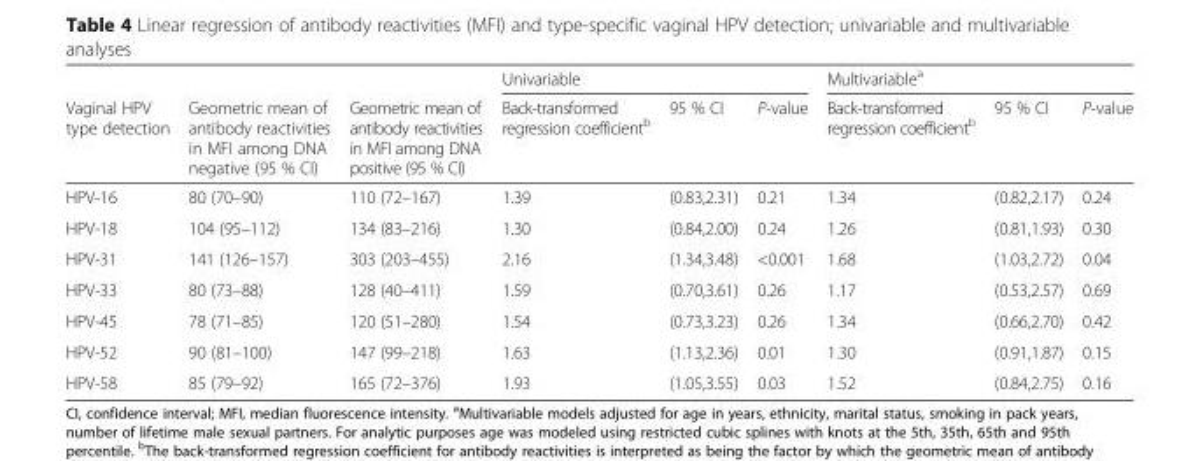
<table><thead><tr><td rowspan="2">Vaginal HPV type detection</td><td rowspan="2">Geometric mean of antibody reactivities in MFI among DNA negative (95 % CI)</td><td rowspan="2">Geometric mean of antibody reactivities in MFI among DNA positive (95 % CI)</td><td colspan="3">Univariable</td><td colspan="3">Multivariable<sup>a</sup></td></tr><tr><td>Back-transformed regression coefficient<sup>b</sup></td><td>95 % CI</td><td>P-value</td><td>Back-transformed regression coefficient<sup>b</sup></td><td>95 % CI</td><td>P-value</td></tr></thead><tbody><tr><td>HPV-16</td><td>80 (70–90)</td><td>110 (72–167)</td><td>1.39</td><td>(0.83,2.31)</td><td>0.21</td><td>1.34</td><td>(0.82,2.17)</td><td>0.24</td></tr><tr><td>HPV-18</td><td>104 (95–112)</td><td>134 (83–216)</td><td>1.30</td><td>(0.84,2.00)</td><td>0.24</td><td>1.26</td><td>(0.81,1.93)</td><td>0.30</td></tr><tr><td>HPV-31</td><td>141 (126–157)</td><td>303 (203–455)</td><td>2.16</td><td>(1.34,3.48)</td><td>&lt;0.001</td><td>1.68</td><td>(1.03,2.72)</td><td>0.04</td></tr><tr><td>HPV-33</td><td>80 (73–88)</td><td>128 (40–411)</td><td>1.59</td><td>(0.70,3.61)</td><td>0.26</td><td>1.17</td><td>(0.53,2.57)</td><td>0.69</td></tr><tr><td>HPV-45</td><td>78 (71–85)</td><td>120 (51–280)</td><td>1.54</td><td>(0.73,3.23)</td><td>0.26</td><td>1.34</td><td>(0.66,2.70)</td><td>0.42</td></tr><tr><td>HPV-52</td><td>90 (81–100)</td><td>147 (99–218)</td><td>1.63</td><td>(1.13,2.36)</td><td>0.01</td><td>1.30</td><td>(0.91,1.87)</td><td>0.15</td></tr><tr><td>HPV-58</td><td>85 (79–92)</td><td>165 (72–376)</td><td>1.93</td><td>(1.05,3.55)</td><td>0.03</td><td>1.52</td><td>(0.84,2.75)</td><td>0.16</td></tr></tbody></table>